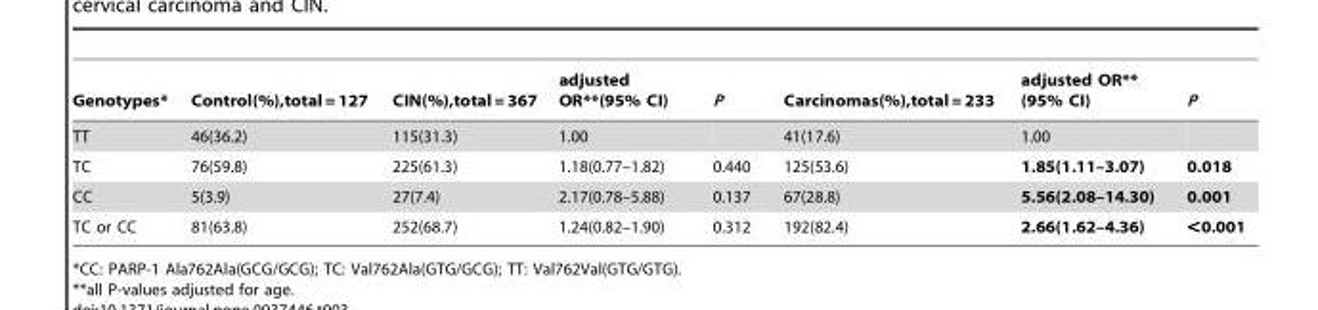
<table><thead><tr><td>Genotypes*</td><td>Control(%),total = 127</td><td>CIN(%),total = 367</td><td>adjusted OR**(95% CI)</td><td>P</td><td>Carcinomas(%),total = 233</td><td>adjusted OR** (95% CI)</td><td>P</td></tr></thead><tbody><tr><td>TT</td><td>46(36.2)</td><td>115(31.3)</td><td>1.00</td><td></td><td>41(17.6)</td><td>1.00</td><td></td></tr><tr><td>TC</td><td>76(59.8)</td><td>225(61.3)</td><td>1.18(0.77–1.82)</td><td>0.440</td><td>125(53.6)</td><td>1.85(1.11–3.07)</td><td>0.018</td></tr><tr><td>CC</td><td>5(3.9)</td><td>27(7.4)</td><td>2.17(0.78–5.88)</td><td>0.137</td><td>67(28.8)</td><td>5.56(2.08–14.30)</td><td>0.001</td></tr><tr><td>TC or CC</td><td>81(63.8)</td><td>252(68.7)</td><td>1.24(0.82–1.90)</td><td>0.312</td><td>192(82.4)</td><td>2.66(1.62–4.36)</td><td>&lt;0.001</td></tr></tbody></table>